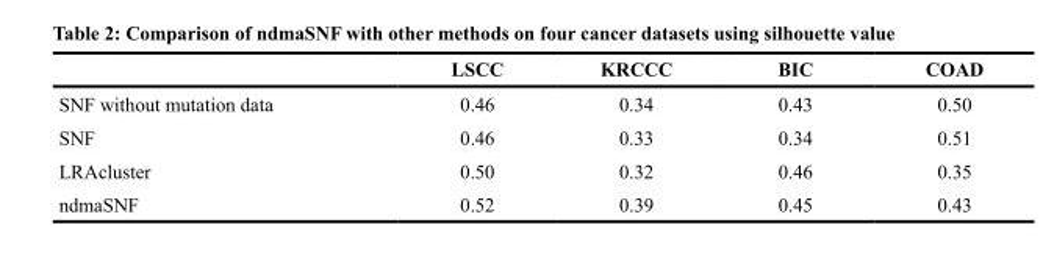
<table><thead><tr><td></td><td>LSCC</td><td>KRCCC</td><td>BIC</td><td>COAD</td></tr></thead><tbody><tr><td>SNF without mutation data</td><td>0.46</td><td>0.34</td><td>0.43</td><td>0.50</td></tr><tr><td>SNF</td><td>0.46</td><td>0.33</td><td>0.34</td><td>0.51</td></tr><tr><td>LRAcluster</td><td>0.50</td><td>0.32</td><td>0.46</td><td>0.35</td></tr><tr><td>ndmaSNF</td><td>0.52</td><td>0.39</td><td>0.45</td><td>0.43</td></tr></tbody></table>